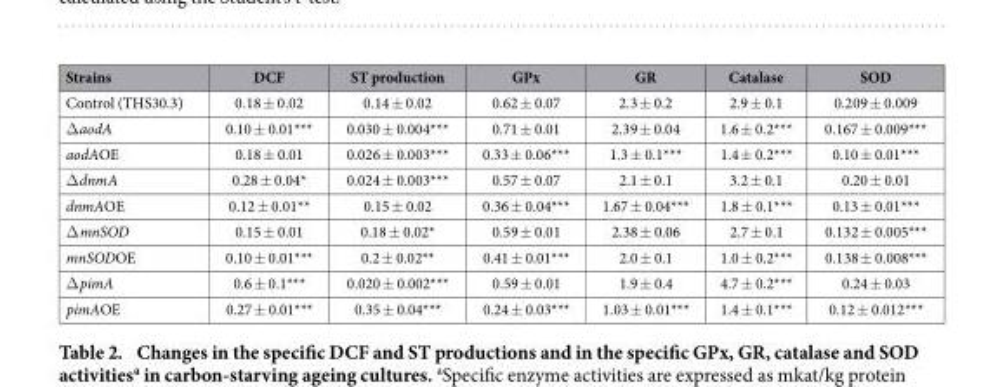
<table><thead><tr><td>Strains</td><td>DCF</td><td>ST production</td><td>GPx</td><td>GR</td><td>Catalase</td><td>SOD</td></tr></thead><tbody><tr><td>Control (THS30.3)</td><td>0.18 ± 0.02</td><td>0.14 ± 0.02</td><td>0.62 ± 0.07</td><td>2.3 ± 0.2</td><td>2.9 ± 0.1</td><td>0.209 ± 0.009</td></tr><tr><td>Δ aodA</td><td>0.10 ± 0.01***</td><td>0.030 ± 0.004***</td><td>0.71 ± 0.01</td><td>2.39 ± 0.04</td><td>1.6 ± 0.2***</td><td>0.167 ± 0.009***</td></tr><tr><td>aodAOE</td><td>0.18 ± 0.01</td><td>0.026 ± 0.003***</td><td>0.33 ± 0.06***</td><td>1.3 ± 0.1***</td><td>1.4 ± 0.2***</td><td>0.10 ± 0.01***</td></tr><tr><td>Δ dnmA</td><td>0.28 ± 0.04*</td><td>0.024 ± 0.003***</td><td>0.57 ± 0.07</td><td>2.1 ± 0.1</td><td>3.2 ± 0.1</td><td>0.20 ± 0.01</td></tr><tr><td>dnmAOE</td><td>0.12 ± 0.01**</td><td>0.15 ± 0.02</td><td>0.36 ± 0.04***</td><td>1.67 ± 0.04***</td><td>1.8 ± 0.1***</td><td>0.13 ± 0.01***</td></tr><tr><td>Δ mnSOD</td><td>0.15 ± 0.01</td><td>0.18 ± 0.02*</td><td>0.59 ± 0.01</td><td>2.38 ± 0.06</td><td>2.7 ± 0.1</td><td>0.132 ± 0.005***</td></tr><tr><td>mnSODOE</td><td>0.10 ± 0.01***</td><td>0.2 ± 0.02**</td><td>0.41 ± 0.01***</td><td>2.0 ± 0.1</td><td>1.0 ± 0.2***</td><td>0.138 ± 0.008***</td></tr><tr><td>Δ pimA</td><td>0.6 ± 0.1***</td><td>0.020 ± 0.002***</td><td>0.59 ± 0.01</td><td>1.9 ± 0.4</td><td>4.7 ± 0.2***</td><td>0.24 ± 0.03</td></tr><tr><td>pimAOE</td><td>0.27 ± 0.01***</td><td>0.35 ± 0.04***</td><td>0.24 ± 0.03***</td><td>1.03 ± 0.01***</td><td>1.4 ± 0.1***</td><td>0.12 ± 0.012***</td></tr></tbody></table>